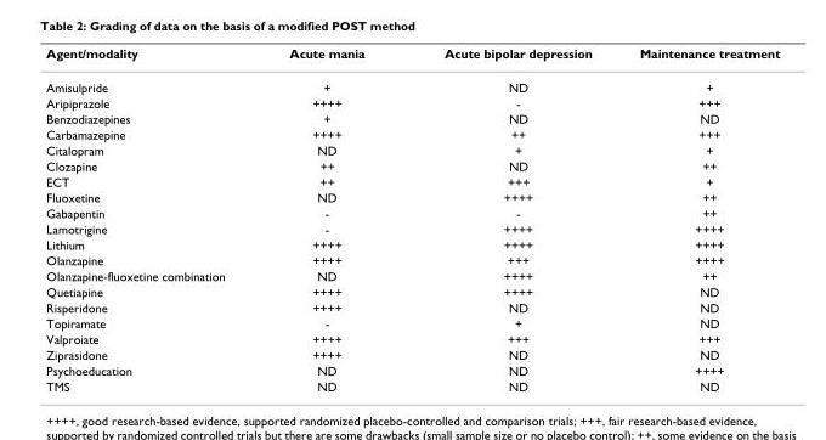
<table><thead><tr><td>Agent/modality</td><td>Acute mania</td><td>Acute bipolar depression</td><td>Maintenance treatment</td></tr></thead><tbody><tr><td>Amisulpride</td><td>+</td><td>ND</td><td>+</td></tr><tr><td>Aripiprazole</td><td>++++</td><td>-</td><td>+++</td></tr><tr><td>Benzodiazepines</td><td>+</td><td>ND</td><td>ND</td></tr><tr><td>Carbamazepine</td><td>++++</td><td>++</td><td>+++</td></tr><tr><td>Citalopram</td><td>ND</td><td>+</td><td>+</td></tr><tr><td>Clozapine</td><td>++</td><td>ND</td><td>++</td></tr><tr><td>ECT</td><td>++</td><td>+++</td><td>+</td></tr><tr><td>Fluoxetine</td><td>ND</td><td>++++</td><td>++</td></tr><tr><td>Gabapentin</td><td>-</td><td>-</td><td>++</td></tr><tr><td>Lamotrigine</td><td>-</td><td>++++</td><td>++++</td></tr><tr><td>Lithium</td><td>++++</td><td>++++</td><td>++++</td></tr><tr><td>Olanzapine</td><td>++++</td><td>+++</td><td>++++</td></tr><tr><td>Olanzapine-fluoxetine combination</td><td>ND</td><td>++++</td><td>++</td></tr><tr><td>Quetiapine</td><td>++++</td><td>++++</td><td>ND</td></tr><tr><td>Risperidone</td><td>++++</td><td>ND</td><td>ND</td></tr><tr><td>Topiramate</td><td>-</td><td>+</td><td>ND</td></tr><tr><td>Valproiate</td><td>++++</td><td>+++</td><td>+++</td></tr><tr><td>Ziprasidone</td><td>++++</td><td>ND</td><td>ND</td></tr><tr><td>Psychoeducation</td><td>ND</td><td>ND</td><td>++++</td></tr><tr><td>TMS</td><td>ND</td><td>ND</td><td>ND</td></tr></tbody></table>